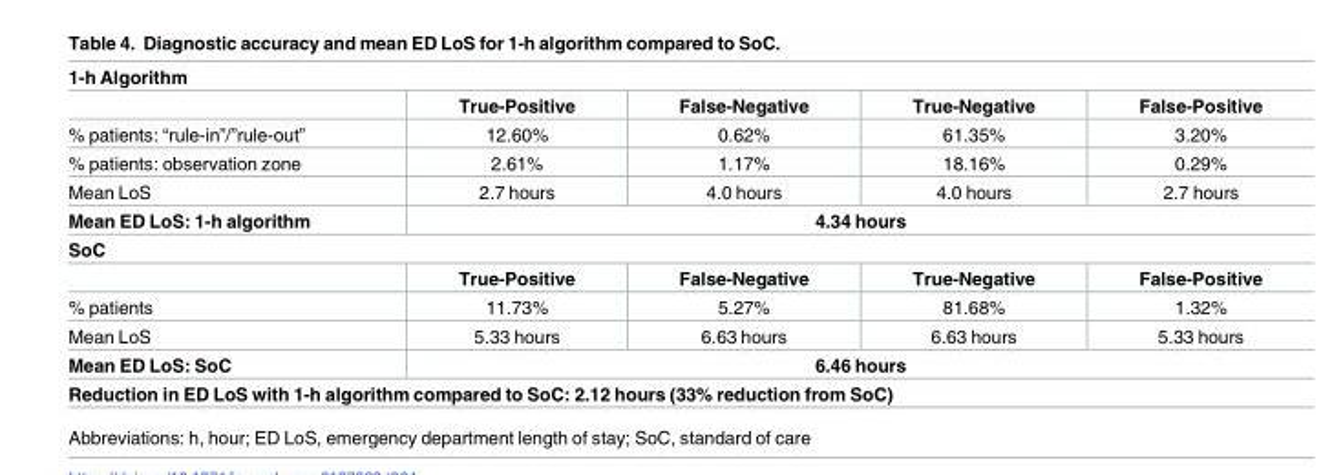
<table><tbody><tr><td colspan="5">1-h Algorithm</td></tr><tr><td></td><td>True-Positive</td><td>False-Negative</td><td>True-Negative</td><td>False-Positive</td></tr><tr><td>% patients: “rule-in”/”rule-out”</td><td>12.60%</td><td>0.62%</td><td>61.35%</td><td>3.20%</td></tr><tr><td>% patients: observation zone</td><td>2.61%</td><td>1.17%</td><td>18.16%</td><td>0.29%</td></tr><tr><td>Mean LoS</td><td>2.7 hours</td><td>4.0 hours</td><td>4.0 hours</td><td>2.7 hours</td></tr><tr><td>Mean ED LoS: 1-h algorithm</td><td colspan="4">4.34 hours</td></tr><tr><td colspan="5">SoC</td></tr><tr><td></td><td>True-Positive</td><td>False-Negative</td><td>True-Negative</td><td>False-Positive</td></tr><tr><td>% patients</td><td>11.73%</td><td>5.27%</td><td>81.68%</td><td>1.32%</td></tr><tr><td>Mean LoS</td><td>5.33 hours</td><td>6.63 hours</td><td>6.63 hours</td><td>5.33 hours</td></tr><tr><td>Mean ED LoS: SoC</td><td colspan="4">6.46 hours</td></tr><tr><td colspan="5">Reduction in ED LoS with 1-h algorithm compared to SoC: 2.12 hours (33% reduction from SoC)</td></tr></tbody></table>